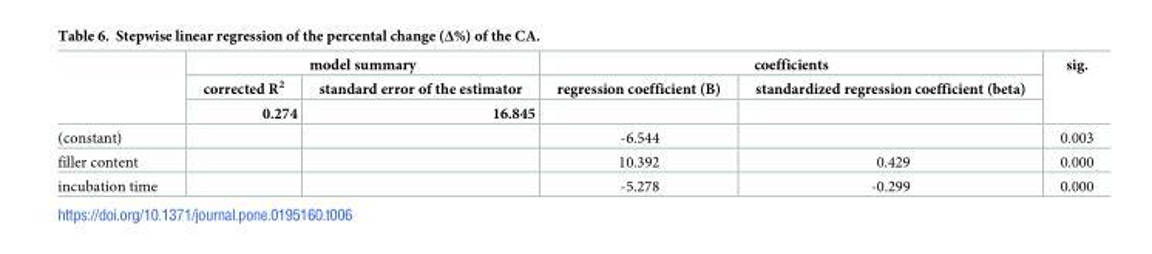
<table><thead><tr><td rowspan="3"></td><td colspan="2">model summary</td><td colspan="2">coefficients</td><td rowspan="3">sig.</td></tr><tr><td rowspan="2">corrected R<sup>2</sup> 0.274</td><td rowspan="2">standard error of the estimator 16.845</td><td rowspan="2">regression coefficient (B)</td><td rowspan="2">standardized regression coefficient (beta)</td></tr><tr></tr></thead><tbody><tr><td>(constant)</td><td></td><td></td><td>-6.544</td><td></td><td>0.003</td></tr><tr><td>filler content</td><td></td><td></td><td>10.392</td><td>0.429</td><td>0.000</td></tr><tr><td>incubation time</td><td></td><td></td><td>-5.278</td><td>-0.299</td><td>0.000</td></tr></tbody></table>